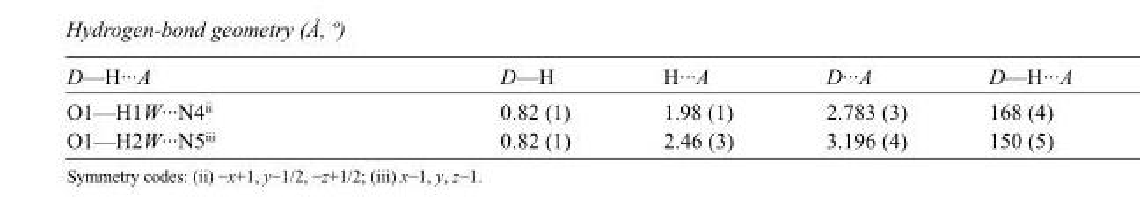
<table><tbody><tr><td>D—H···A</td><td>D—H</td><td>H···A</td><td>D···A</td><td>D—H···A</td></tr><tr><td>O1—H1W···N4<sup>ii</sup></td><td>0.82 (1)</td><td>1.98 (1)</td><td>2.783 (3)</td><td>168 (4)</td></tr><tr><td>O1—H2W···N5<sup>iii</sup></td><td>0.82 (1)</td><td>2.46 (3)</td><td>3.196 (4)</td><td>150 (5)</td></tr></tbody></table>